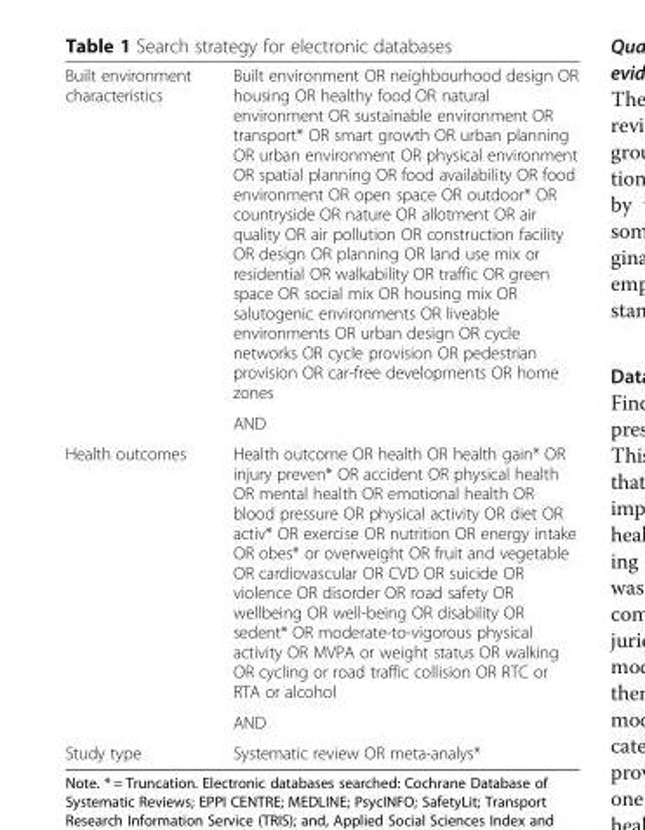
<table><tbody><tr><td rowspan="2">Built environment characteristics</td><td>Built environment OR neighbourhood design OR housing OR healthy food OR natural environment OR sustainable environment OR transport* OR smart growth OR urban planning OR urban environment OR physical environment OR spatial planning OR food availability OR food environment OR open space OR outdoor* OR countryside OR nature OR allotment OR air quality OR air pollution OR construction facility OR design OR planning OR land use mix or residential OR walkability OR traffic OR green space OR social mix OR housing mix OR salutogenic environments OR liveable environments OR urban design OR cycle networks OR cycle provision OR pedestrian provision OR car-free developments OR home zones</td></tr><tr><td>AND</td></tr><tr><td rowspan="2">Health outcomes</td><td>Health outcome OR health OR health gain* OR injury preven* OR accident OR physical health OR mental health OR emotional health OR blood pressure OR physical activity OR diet OR activ* OR exercise OR nutrition OR energy intake OR obes* or overweight OR fruit and vegetable OR cardiovascular OR CVD OR suicide OR violence OR disorder OR road safety OR wellbeing OR well-being OR disability OR sedent* OR moderate-to-vigorous physical activity OR MVPA or weight status OR walking OR cycling or road traffic collision OR RTC or RTA or alcohol</td></tr><tr><td>AND</td></tr><tr><td>Study type</td><td>Systematic review OR meta-analys*</td></tr></tbody></table>